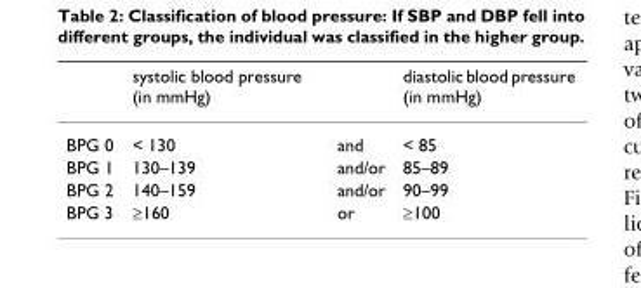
<table><thead><tr><td></td><td>systolic blood pressure (in mmHg)</td><td></td><td>diastolic blood pressure (in mmHg)</td></tr></thead><tbody><tr><td>BPG 0</td><td>&lt; 130</td><td>and</td><td>&lt; 85</td></tr><tr><td>BPG 1</td><td>130–139</td><td>and/or</td><td>85–89</td></tr><tr><td>BPG 2</td><td>140–159</td><td>and/or</td><td>90–99</td></tr><tr><td>BPG 3</td><td>≥160</td><td>or</td><td>≥100</td></tr></tbody></table>